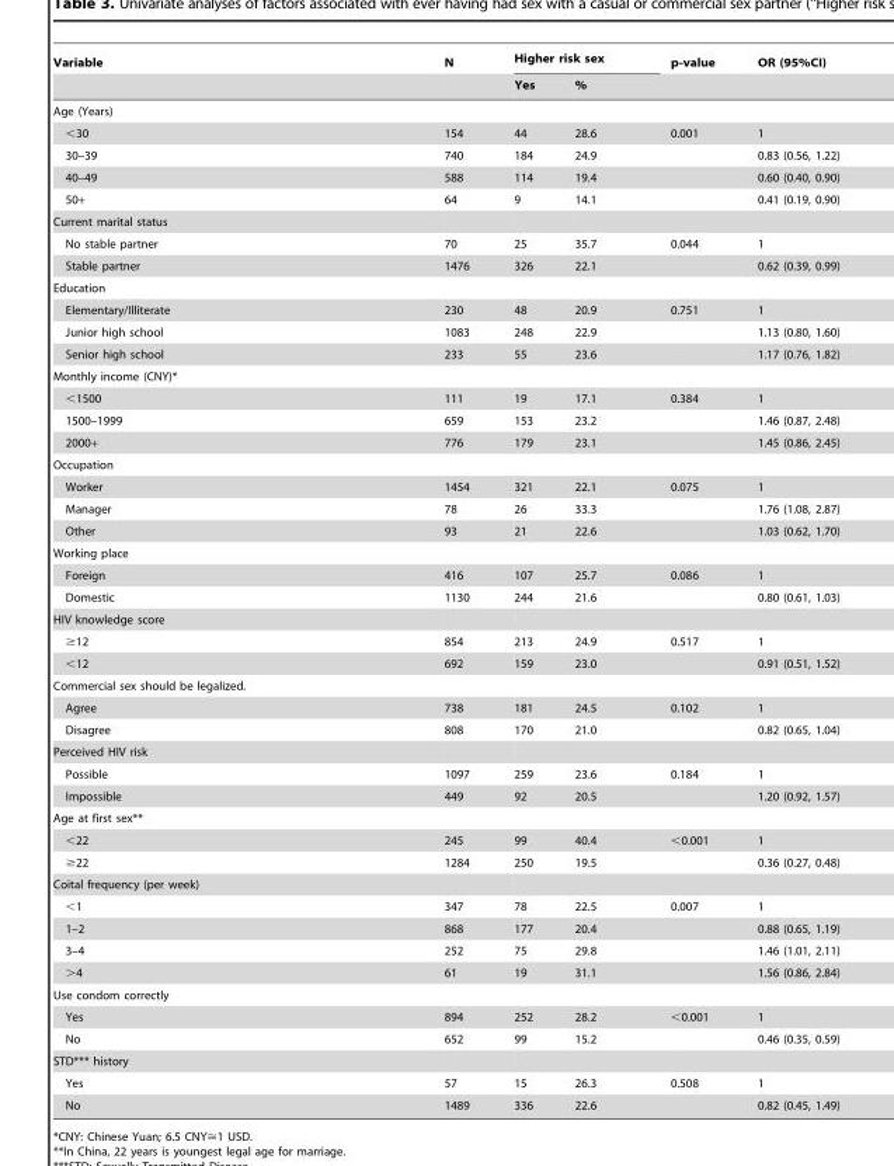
<table><thead><tr><td rowspan="2">Variable</td><td rowspan="2">N</td><td colspan="2">Higher risk sex</td><td rowspan="2">p-value</td><td rowspan="2">OR (95%CI)</td></tr><tr><td>Yes</td><td>%</td></tr></thead><tbody><tr><td colspan="6">Age (Years)</td></tr><tr><td>&lt;30</td><td>154</td><td>44</td><td>28.6</td><td>0.001</td><td>1</td></tr><tr><td>30–39</td><td>740</td><td>184</td><td>24.9</td><td></td><td>0.83 (0.56, 1.22)</td></tr><tr><td>40–49</td><td>588</td><td>114</td><td>19.4</td><td></td><td>0.60 (0.40, 0.90)</td></tr><tr><td>50+</td><td>64</td><td>9</td><td>14.1</td><td></td><td>0.41 (0.19, 0.90)</td></tr><tr><td colspan="6">Current marital status</td></tr><tr><td>No stable partner</td><td>70</td><td>25</td><td>35.7</td><td>0.044</td><td>1</td></tr><tr><td>Stable partner</td><td>1476</td><td>326</td><td>22.1</td><td></td><td>0.62 (0.39, 0.99)</td></tr><tr><td colspan="6">Education</td></tr><tr><td>Elementary/Illiterate</td><td>230</td><td>48</td><td>20.9</td><td>0.751</td><td>1</td></tr><tr><td>Junior high school</td><td>1083</td><td>248</td><td>22.9</td><td></td><td>1.13 (0.80, 1.60)</td></tr><tr><td>Senior high school</td><td>233</td><td>55</td><td>23.6</td><td></td><td>1.17 (0.76, 1.82)</td></tr><tr><td colspan="6">Monthly income (CNY)*</td></tr><tr><td>&lt;1500</td><td>111</td><td>19</td><td>17.1</td><td>0.384</td><td>1</td></tr><tr><td>1500–1999</td><td>659</td><td>153</td><td>23.2</td><td></td><td>1.46 (0.87, 2.48)</td></tr><tr><td>2000+</td><td>776</td><td>179</td><td>23.1</td><td></td><td>1.45 (0.86, 2.45)</td></tr><tr><td colspan="6">Occupation</td></tr><tr><td>Worker</td><td>1454</td><td>321</td><td>22.1</td><td>0.075</td><td>1</td></tr><tr><td>Manager</td><td>78</td><td>26</td><td>33.3</td><td></td><td>1.76 (1.08, 2.87)</td></tr><tr><td>Other</td><td>93</td><td>21</td><td>22.6</td><td></td><td>1.03 (0.62, 1.70)</td></tr><tr><td colspan="6">Working place</td></tr><tr><td>Foreign</td><td>416</td><td>107</td><td>25.7</td><td>0.086</td><td>1</td></tr><tr><td>Domestic</td><td>1130</td><td>244</td><td>21.6</td><td></td><td>0.80 (0.61, 1.03)</td></tr><tr><td colspan="6">HIV knowledge score</td></tr><tr><td>≥12</td><td>854</td><td>213</td><td>24.9</td><td>0.517</td><td>1</td></tr><tr><td>&lt;12</td><td>692</td><td>159</td><td>23.0</td><td></td><td>0.91 (0.51, 1.52)</td></tr><tr><td colspan="6">Commercial sex should be legalized.</td></tr><tr><td>Agree</td><td>738</td><td>181</td><td>24.5</td><td>0.102</td><td>1</td></tr><tr><td>Disagree</td><td>808</td><td>170</td><td>21.0</td><td></td><td>0.82 (0.65, 1.04)</td></tr><tr><td colspan="6">Perceived HIV risk</td></tr><tr><td>Possible</td><td>1097</td><td>259</td><td>23.6</td><td>0.184</td><td>1</td></tr><tr><td>Impossible</td><td>449</td><td>92</td><td>20.5</td><td></td><td>1.20 (0.92, 1.57)</td></tr><tr><td colspan="6">Age at first sex**</td></tr><tr><td>&lt;22</td><td>245</td><td>99</td><td>40.4</td><td>&lt;0.001</td><td>1</td></tr><tr><td>≥22</td><td>1284</td><td>250</td><td>19.5</td><td></td><td>0.36 (0.27, 0.48)</td></tr><tr><td colspan="6">Coital frequency (per week)</td></tr><tr><td>&lt;1</td><td>347</td><td>78</td><td>22.5</td><td>0.007</td><td>1</td></tr><tr><td>1–2</td><td>868</td><td>177</td><td>20.4</td><td></td><td>0.88 (0.65, 1.19)</td></tr><tr><td>3–4</td><td>252</td><td>75</td><td>29.8</td><td></td><td>1.46 (1.01, 2.11)</td></tr><tr><td>&gt;4</td><td>61</td><td>19</td><td>31.1</td><td></td><td>1.56 (0.86, 2.84)</td></tr><tr><td colspan="6">Use condom correctly</td></tr><tr><td>Yes</td><td>894</td><td>252</td><td>28.2</td><td>&lt;0.001</td><td>1</td></tr><tr><td>No</td><td>652</td><td>99</td><td>15.2</td><td></td><td>0.46 (0.35, 0.59)</td></tr><tr><td colspan="6">STD*** history</td></tr><tr><td>Yes</td><td>57</td><td>15</td><td>26.3</td><td>0.508</td><td>1</td></tr><tr><td>No</td><td>1489</td><td>336</td><td>22.6</td><td></td><td>0.82 (0.45, 1.49)</td></tr></tbody></table>